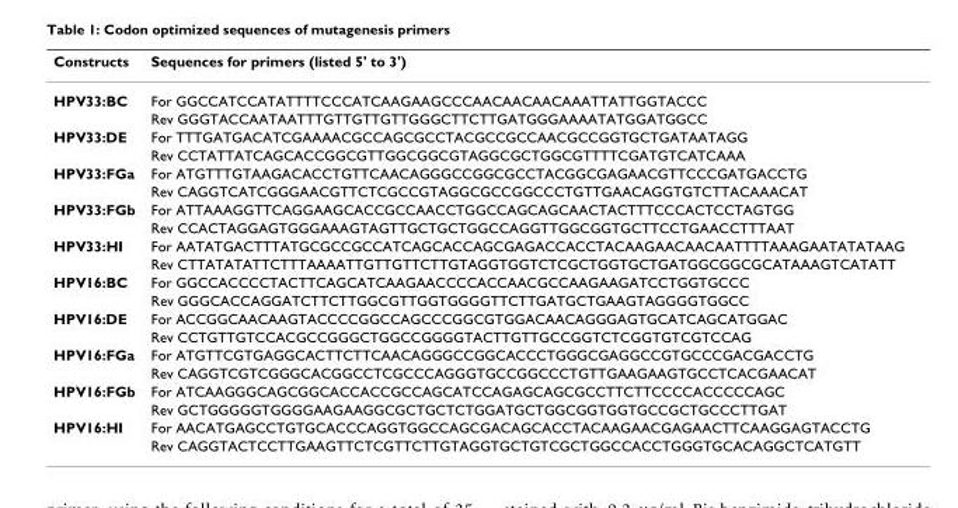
<table><thead><tr><td>Constructs</td><td>Sequences for primers (listed 5&#x27; to 3&#x27;)</td></tr></thead><tbody><tr><td rowspan="2">HPV33:BC</td><td>For GGCCATCCATATTTTCCCATCAAGAAGCCCAACAACAACAAATTATTGGTACCC</td></tr><tr><td>Rev GGGTACCAATAATTTGTTGTTGTTGGGCTTCTTGATGGGAAAATATGGATGGCC</td></tr><tr><td rowspan="2">HPV33:DE</td><td>For TTTGATGACATCGAAAACGCCAGCGCCTACGCCGCCAACGCCGGTGCTGATAATAGG</td></tr><tr><td>Rev CCTATTATCAGCACCGGCGTTGGCGGCGTAGGCGCTGGCGTTTTCGATGTCATCAAA</td></tr><tr><td rowspan="2">HPV33:FGa</td><td>For ATGTTTGTAAGACACCTGTTCAACAGGGCCGGCGCCTACGGCGAGAACGTTCCCGATGACCTG</td></tr><tr><td>Rev CAGGTCATCGGGAACGTTCTCGCCGTAGGCGCCGGCCCTGTTGAACAGGTGTCTTACAAACAT</td></tr><tr><td rowspan="2">HPV33:FGb</td><td>For ATTAAAGGTTCAGGAAGCACCGCCAACCTGGCCAGCAGCAACTACTTTCCCACTCCTAGTGG</td></tr><tr><td>Rev CCACTAGGAGTGGGAAAGTAGTTGCTGCTGGCCAGGTTGGCGGTGCTTCCTGAACCTTTAAT</td></tr><tr><td rowspan="2">HPV33:HI</td><td>For AATATGACTTTATGCGCCGCCATCAGCACCAGCGAGACCACCTACAAGAACAACAATTTTAAAGAATATATAAG</td></tr><tr><td>Rev CTTATATATTCTTTAAAATTGTTGTTCTTGTAGGTGGTCTCGCTGGTGCTGATGGCGGCGCATAAAGTCATATT</td></tr><tr><td rowspan="2">HPV16:BC</td><td>For GGCCACCCCTACTTCAGCATCAAGAACCCCACCAACGCCAAGAAGATCCTGGTGCCC</td></tr><tr><td>Rev GGGCACCAGGATCTTCTTGGCGTTGGTGGGGTTCTTGATGCTGAAGTAGGGGTGGCC</td></tr><tr><td rowspan="2">HPV16:DE</td><td>For ACCGGCAACAAGTACCCCGGCCAGCCCGGCGTGGACAACAGGGAGTGCATCAGCATGGAC</td></tr><tr><td>Rev CCTGTTGTCCACGCCGGGCTGGCCGGGGTACTTGTTGCCGGTCTCGGTGTCGTCCAG</td></tr><tr><td rowspan="2">HPV16:FGa</td><td>For ATGTTCGTGAGGCACTTCTTCAACAGGGCCGGCACCCTGGGCGAGGCCGTGCCCGACGACCTG</td></tr><tr><td>Rev CAGGTCGTCGGGCACGGCCTCGCCCAGGGTGCCGGCCCTGTTGAAGAAGTGCCTCACGAACAT</td></tr><tr><td rowspan="2">HPV16:FGb</td><td>For ATCAAGGGCAGCGGCACCACCGCCAGCATCCAGAGCAGCGCCTTCTTCCCCACCCCCAGC</td></tr><tr><td>Rev GCTGGGGGTGGGGAAGAAGGCGCTGCTCTGGATGCTGGCGGTGGTGCCGCTGCCCTTGAT</td></tr><tr><td rowspan="2">HPV16:HI</td><td>For AACATGAGCCTGTGCACCCAGGTGGCCAGCGACAGCACCTACAAGAACGAGAACTTCAAGGAGTACCTG</td></tr><tr><td>Rev CAGGTACTCCTTGAAGTTCTCGTTCTTGTAGGTGCTGTCGCTGGCCACCTGGGTGCACAGGCTCATGTT</td></tr></tbody></table>